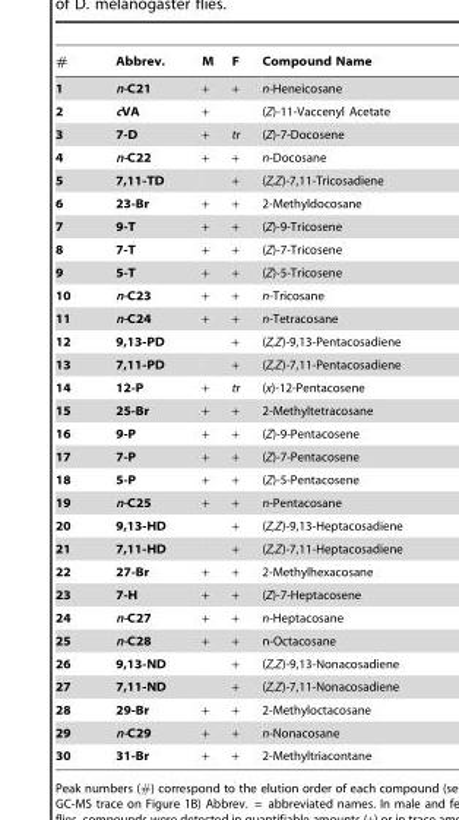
<table><thead><tr><td>#</td><td>Abbrev.</td><td>M</td><td>F</td><td>Compound Name</td></tr></thead><tbody><tr><td>1</td><td>n-C21</td><td>+</td><td>+</td><td>n-Heneicosane</td></tr><tr><td>2</td><td>cVA</td><td>+</td><td></td><td>(Z)-11-Vaccenyl Acetate</td></tr><tr><td>3</td><td>7-D</td><td>+</td><td>tr</td><td>(Z)-7-Docosene</td></tr><tr><td>4</td><td>n-C22</td><td>+</td><td>+</td><td>n-Docosane</td></tr><tr><td>5</td><td>7,11-TD</td><td></td><td>+</td><td>(Z,Z)-7,11-Tricosadiene</td></tr><tr><td>6</td><td>23-Br</td><td>+</td><td>+</td><td>2-Methyldocosane</td></tr><tr><td>7</td><td>9-T</td><td>+</td><td>+</td><td>(Z)-9-Tricosene</td></tr><tr><td>8</td><td>7-T</td><td>+</td><td>+</td><td>(Z)-7-Tricosene</td></tr><tr><td>9</td><td>5-T</td><td>+</td><td>+</td><td>(Z)-5-Tricosene</td></tr><tr><td>10</td><td>n-C23</td><td>+</td><td>+</td><td>n-Tricosane</td></tr><tr><td>11</td><td>n-C24</td><td>+</td><td>+</td><td>n-Tetracosane</td></tr><tr><td>12</td><td>9,13-PD</td><td></td><td>+</td><td>(Z,Z)-9,13-Pentacosadiene</td></tr><tr><td>13</td><td>7,11-PD</td><td></td><td>+</td><td>(Z,Z)-7,11-Pentacosadiene</td></tr><tr><td>14</td><td>12-P</td><td>+</td><td>tr</td><td>(x)-12-Pentacosene</td></tr><tr><td>15</td><td>25-Br</td><td>+</td><td>+</td><td>2-Methyltetracosane</td></tr><tr><td>16</td><td>9-P</td><td>+</td><td>+</td><td>(Z)-9-Pentacosene</td></tr><tr><td>17</td><td>7-P</td><td>+</td><td>+</td><td>(Z)-7-Pentacosene</td></tr><tr><td>18</td><td>5-P</td><td>+</td><td>+</td><td>(Z)-5-Pentacosene</td></tr><tr><td>19</td><td>n-C25</td><td>+</td><td>+</td><td>n-Pentacosane</td></tr><tr><td>20</td><td>9,13-HD</td><td></td><td>+</td><td>(Z,Z)-9,13-Heptacosadiene</td></tr><tr><td>21</td><td>7,11-HD</td><td></td><td>+</td><td>(Z,Z)-7,11-Heptacosadiene</td></tr><tr><td>22</td><td>27-Br</td><td>+</td><td>+</td><td>2-Methylhexacosane</td></tr><tr><td>23</td><td>7-H</td><td>+</td><td>+</td><td>(Z)-7-Heptacosene</td></tr><tr><td>24</td><td>n-C27</td><td>+</td><td>+</td><td>n-Heptacosane</td></tr><tr><td>25</td><td>n-C28</td><td>+</td><td>+</td><td>n-Octacosane</td></tr><tr><td>26</td><td>9,13-ND</td><td></td><td>+</td><td>(Z,Z)-9,13-Nonacosadiene</td></tr><tr><td>27</td><td>7,11-ND</td><td></td><td>+</td><td>(Z,Z)-7,11-Nonacosadiene</td></tr><tr><td>28</td><td>29-Br</td><td>+</td><td>+</td><td>2-Methyloctacosane</td></tr><tr><td>29</td><td>n-C29</td><td>+</td><td>+</td><td>n-Nonacosane</td></tr><tr><td>30</td><td>31-Br</td><td>+</td><td>+</td><td>2-Methyltriacontane</td></tr></tbody></table>